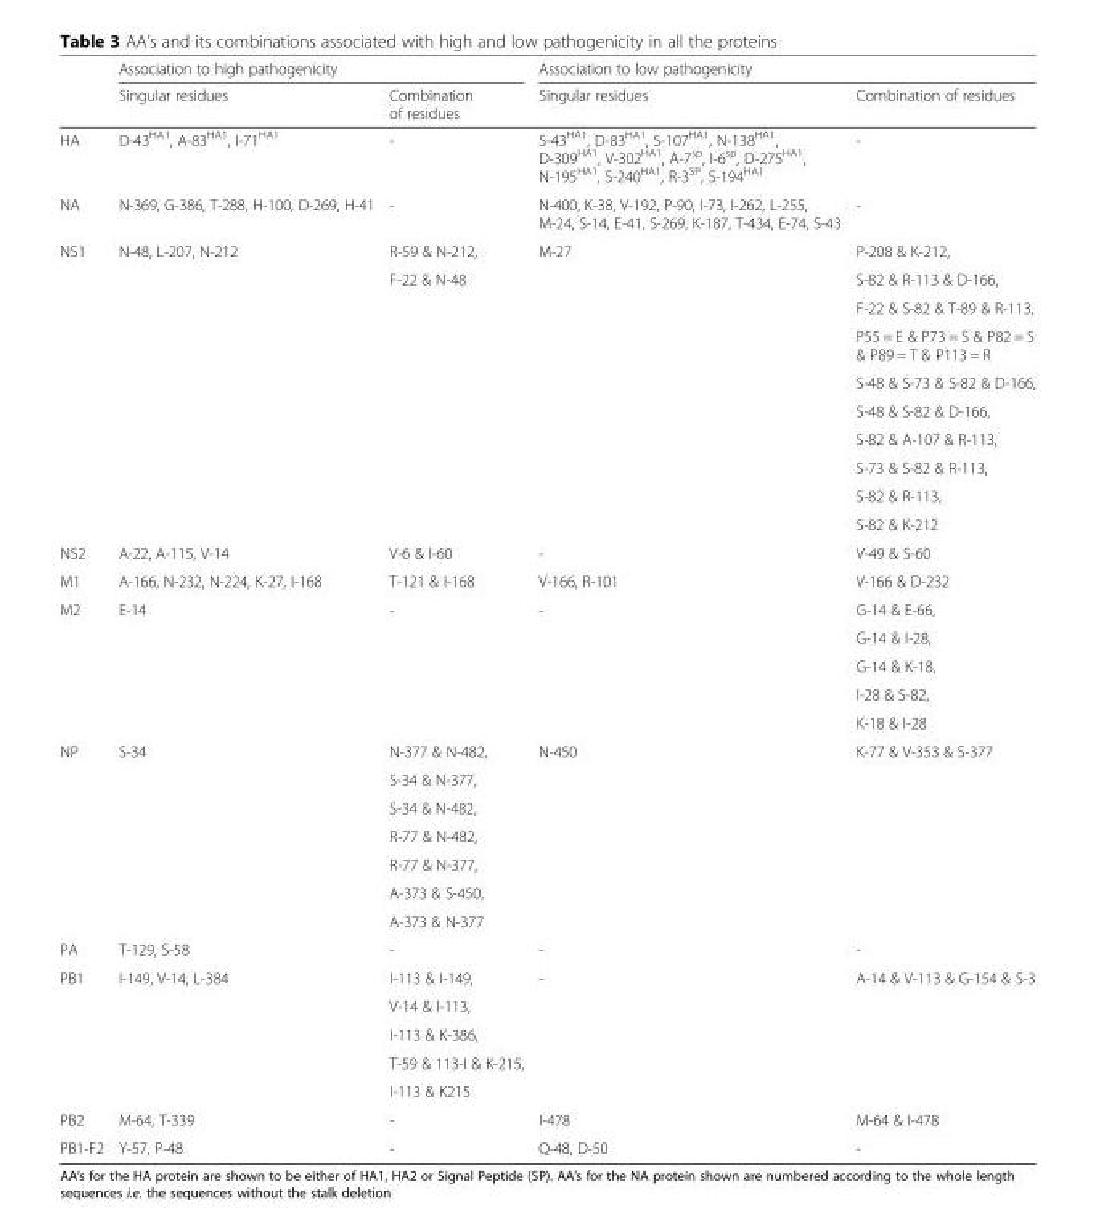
<table><thead><tr><td rowspan="2"></td><td colspan="2">Association to high pathogenicity</td><td colspan="2">Association to low pathogenicity</td></tr><tr><td>Singular residues</td><td>Combination of residues</td><td>Singular residues</td><td>Combination of residues</td></tr></thead><tbody><tr><td>HA</td><td>D-43<sup>HA1</sup>, A-83<sup>HA1</sup>, I-71<sup>HA1</sup></td><td>-</td><td>S-43<sup>HA1</sup>, D-83<sup>HA1</sup>, S-107<sup>HA1</sup>, N-138<sup>HA1</sup>, D-309<sup>HA1</sup>, V-302<sup>HA1</sup>, A-7<sup>sp</sup>, I-6<sup>sp</sup>, D-275<sup>HA1</sup>, N-195<sup>HA1</sup>, S-240<sup>HA1</sup>, R-3<sup>SP</sup>, S-194<sup>HA1</sup></td><td>-</td></tr><tr><td>NA</td><td>N-369, G-386, T-288, H-100, D-269, H-41</td><td>-</td><td>N-400, K-38, V-192, P-90, I-73, I-262, L-255, M-24, S-14, E-41, S-269, K-187, T-434, E-74, S-43</td><td>-</td></tr><tr><td rowspan="10">NS1</td><td rowspan="10">N-48, L-207, N-212</td><td>R-59 &amp; N-212,</td><td rowspan="10">M-27</td><td>P-208 &amp; K-212,</td></tr><tr><td rowspan="9">F-22 &amp; N-48</td><td>S-82 &amp; R-113 &amp; D-166,</td></tr><tr><td>F-22 &amp; S-82 &amp; T-89 &amp; R-113,</td></tr><tr><td>P55 = E &amp; P73 = S &amp; P82 = S &amp; P89 = T &amp; P113 = R</td></tr><tr><td>S-48 &amp; S-73 &amp; S-82 &amp; D-166,</td></tr><tr><td>S-48 &amp; S-82 &amp; D-166,</td></tr><tr><td>S-82 &amp; A-107 &amp; R-113,</td></tr><tr><td>S-73 &amp; S-82 &amp; R-113,</td></tr><tr><td>S-82 &amp; R-113,</td></tr><tr><td>S-82 &amp; K-212</td></tr><tr><td>NS2</td><td>A-22, A-115, V-14</td><td>V-6 &amp; I-60</td><td>-</td><td>V-49 &amp; S-60</td></tr><tr><td>M1</td><td>A-166, N-232, N-224, K-27, I-168</td><td>T-121 &amp; I-168</td><td>V-166, R-101</td><td>V-166 &amp; D-232</td></tr><tr><td rowspan="5">M2</td><td rowspan="5">E-14</td><td rowspan="5">-</td><td rowspan="5">-</td><td>G-14 &amp; E-66,</td></tr><tr><td>G-14 &amp; I-28,</td></tr><tr><td>G-14 &amp; K-18,</td></tr><tr><td>I-28 &amp; S-82,</td></tr><tr><td>K-18 &amp; I-28</td></tr><tr><td rowspan="7">NP</td><td rowspan="7">S-34</td><td>N-377 &amp; N-482,</td><td rowspan="7">N-450</td><td rowspan="7">K-77 &amp; V-353 &amp; S-377</td></tr><tr><td>S-34 &amp; N-377,</td></tr><tr><td>S-34 &amp; N-482,</td></tr><tr><td>R-77 &amp; N-482,</td></tr><tr><td>R-77 &amp; N-377,</td></tr><tr><td>A-373 &amp; S-450,</td></tr><tr><td>A-373 &amp; N-377</td></tr><tr><td>PA</td><td>T-129, S-58</td><td>-</td><td>-</td><td>-</td></tr><tr><td rowspan="5">PB1</td><td rowspan="5">I-149, V-14, L-384</td><td>I-113 &amp; I-149,</td><td rowspan="5">-</td><td rowspan="5">A-14 &amp; V-113 &amp; G-154 &amp; S-3</td></tr><tr><td>V-14 &amp; I-113,</td></tr><tr><td>I-113 &amp; K-386,</td></tr><tr><td>T-59 &amp; 113-I &amp; K-215,</td></tr><tr><td>I-113 &amp; K215</td></tr><tr><td>PB2</td><td>M-64, T-339</td><td>-</td><td>I-478</td><td>M-64 &amp; I-478</td></tr><tr><td>PB1-F2</td><td>Y-57, P-48</td><td>-</td><td>Q-48, D-50</td><td>-</td></tr></tbody></table>